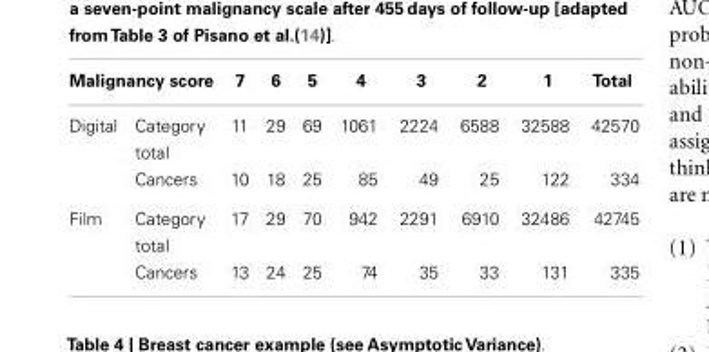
<table><thead><tr><td colspan="2">Malignancy score</td><td rowspan="2">7 11</td><td rowspan="2">6 29</td><td rowspan="2">5 69</td><td rowspan="2">4 1061</td><td rowspan="2">3 2224</td><td rowspan="2">2 6588</td><td rowspan="2">1 32588</td><td rowspan="2">Total 42570</td></tr><tr><td>Digital</td><td>Category total</td></tr></thead><tbody><tr><td></td><td>Cancers</td><td>10</td><td>18</td><td>25</td><td>85</td><td>49</td><td>25</td><td>122</td><td>334</td></tr><tr><td rowspan="2">Film</td><td>Category total</td><td>17</td><td>29</td><td>70</td><td>942</td><td>2291</td><td>6910</td><td>32486</td><td>42745</td></tr><tr><td>Cancers</td><td>13</td><td>24</td><td>25</td><td>74</td><td>35</td><td>33</td><td>131</td><td>335</td></tr></tbody></table>